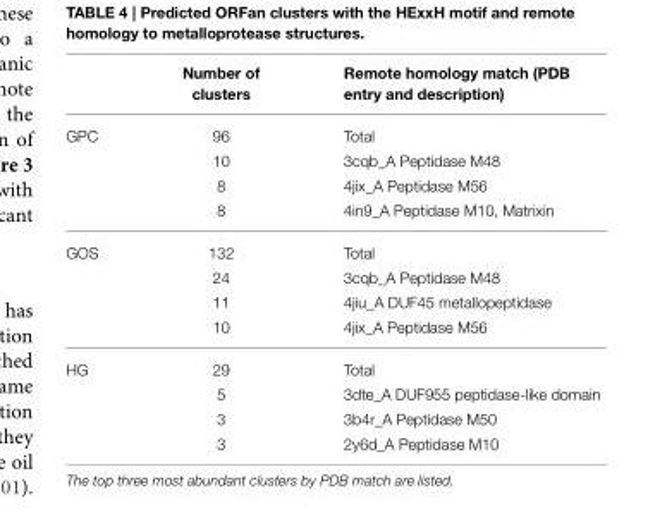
<table><thead><tr><td></td><td>Number of clusters</td><td>Remote homology match (PDB entry and description)</td></tr></thead><tbody><tr><td rowspan="4">GPC</td><td>96</td><td>Total</td></tr><tr><td>10</td><td>3cqb_A Peptidase M48</td></tr><tr><td>8</td><td>4jix_A Peptidase M56</td></tr><tr><td>8</td><td>4in9_A Peptidase M10, Matrixin</td></tr><tr><td rowspan="4">GOS</td><td>132</td><td>Total</td></tr><tr><td>24</td><td>3cqb_A Peptidase M48</td></tr><tr><td>11</td><td>4jiu_A DUF45 metallopeptidase</td></tr><tr><td>10</td><td>4jix_A Peptidase M56</td></tr><tr><td rowspan="4">HG</td><td>29</td><td>Total</td></tr><tr><td>5</td><td>3dte_A DUF955 peptidase-like domain</td></tr><tr><td>3</td><td>3b4r_A Peptidase M50</td></tr><tr><td>3</td><td>2y6d_A Peptidase M10</td></tr></tbody></table>